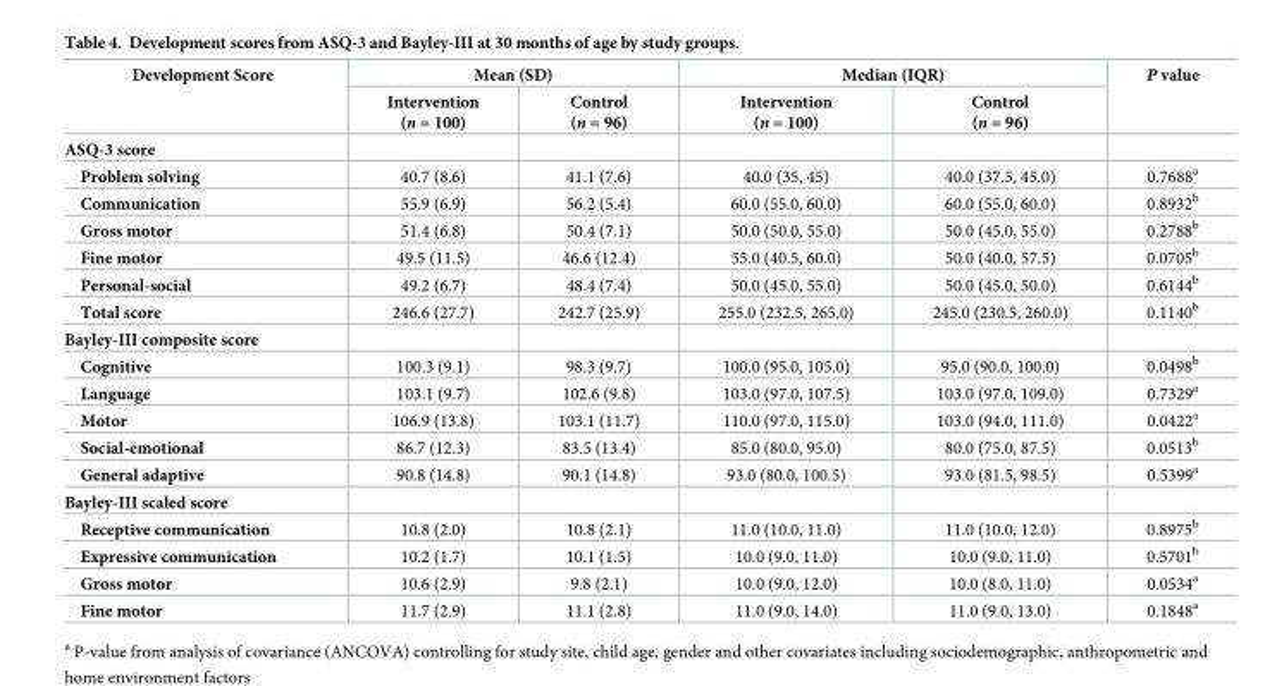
<table><thead><tr><td rowspan="2">Development Score</td><td colspan="2">Mean (SD)</td><td colspan="2">Median (IQR)</td><td rowspan="2">P value</td></tr><tr><td>Intervention (n = 100)</td><td>Control (n = 96)</td><td>Intervention (n = 100)</td><td>Control (n = 96)</td></tr></thead><tbody><tr><td colspan="6">ASQ-3 score</td></tr><tr><td>Problem solving</td><td>40.7 (8.6)</td><td>41.1 (7.6)</td><td>40.0 (35, 45)</td><td>40.0 (37.5, 45.0)</td><td>0.7688<sup>a</sup></td></tr><tr><td>Communication</td><td>55.9 (6.9)</td><td>56.2 (5.4)</td><td>60.0 (55.0, 60.0)</td><td>60.0 (55.0, 60.0)</td><td>0.8932<sup>b</sup></td></tr><tr><td>Gross motor</td><td>51.4 (6.8)</td><td>50.4 (7.1)</td><td>50.0 (50.0, 55.0)</td><td>50.0 (45.0, 55.0)</td><td>0.2788<sup>b</sup></td></tr><tr><td>Fine motor</td><td>49.5 (11.5)</td><td>46.6 (12.4)</td><td>55.0 (40.5, 60.0)</td><td>50.0 (40.0, 57.5)</td><td>0.0705<sup>b</sup></td></tr><tr><td>Personal-social</td><td>49.2 (6.7)</td><td>48.4 (7.4)</td><td>50.0 (45.0, 55.0)</td><td>50.0 (45.0, 50.0)</td><td>0.6144<sup>b</sup></td></tr><tr><td>Total score</td><td>246.6 (27.7)</td><td>242.7 (25.9)</td><td>255.0 (232.5, 265.0)</td><td>245.0 (230.5, 260.0)</td><td>0.1140<sup>b</sup></td></tr><tr><td colspan="6">Bayley-III composite score</td></tr><tr><td>Cognitive</td><td>100.3 (9.1)</td><td>98.3 (9.7)</td><td>100.0 (95.0, 105.0)</td><td>95.0 (90.0, 100.0)</td><td>0.0498<sup>b</sup></td></tr><tr><td>Language</td><td>103.1 (9.7)</td><td>102.6 (9.8)</td><td>103.0 (97.0, 107.5)</td><td>103.0 (97.0, 109.0)</td><td>0.7329<sup>a</sup></td></tr><tr><td>Motor</td><td>106.9 (13.8)</td><td>103.1 (11.7)</td><td>110.0 (97.0, 115.0)</td><td>103.0 (94.0, 111.0)</td><td>0.0422<sup>a</sup></td></tr><tr><td>Social-emotional</td><td>86.7 (12.3)</td><td>83.5 (13.4)</td><td>85.0 (80.0, 95.0)</td><td>80.0 (75.0, 87.5)</td><td>0.0513<sup>b</sup></td></tr><tr><td>General adaptive</td><td>90.8 (14.8)</td><td>90.1 (14.8)</td><td>93.0 (80.0, 100.5)</td><td>93.0 (81.5, 98.5)</td><td>0.5399<sup>a</sup></td></tr><tr><td colspan="6">Bayley-III scaled score</td></tr><tr><td>Receptive communication</td><td>10.8 (2.0)</td><td>10.8 (2.1)</td><td>11.0 (10.0, 11.0)</td><td>11.0 (10.0, 12.0)</td><td>0.8975<sup>b</sup></td></tr><tr><td>Expressive communication</td><td>10.2 (1.7)</td><td>10.1 (1.5)</td><td>10.0 (9.0, 11.0)</td><td>10.0 (9.0, 11.0)</td><td>0.5701<sup>b</sup></td></tr><tr><td>Gross motor</td><td>10.6 (2.9)</td><td>9.8 (2.1)</td><td>10.0 (9.0, 12.0)</td><td>10.0 (8.0, 11.0)</td><td>0.0534<sup>a</sup></td></tr><tr><td>Fine motor</td><td>11.7 (2.9)</td><td>11.1 (2.8)</td><td>11.0 (9.0, 14.0)</td><td>11.0 (9.0, 13.0)</td><td>0.1848<sup>a</sup></td></tr></tbody></table>